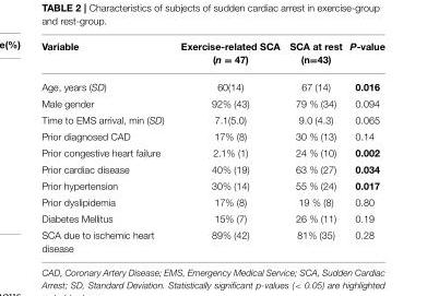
<table><thead><tr><td>Variable</td><td>Exercise-related SCA (n = 47)</td><td>SCA at rest (n=43)</td><td>P-value</td></tr></thead><tbody><tr><td>Age, years (SD)</td><td>60(14)</td><td>67 (14)</td><td>0.016</td></tr><tr><td>Male gender</td><td>92% (43)</td><td>79 % (34)</td><td>0.094</td></tr><tr><td>Time to EMS arrival, min (SD)</td><td>7.1(5.0)</td><td>9.0 (4.3)</td><td>0.065</td></tr><tr><td>Prior diagnosed CAD</td><td>17% (8)</td><td>30 % (13)</td><td>0.14</td></tr><tr><td>Prior congestive heart failure</td><td>2.1% (1)</td><td>24 % (10)</td><td>0.002</td></tr><tr><td>Prior cardiac disease</td><td>40% (19)</td><td>63 % (27)</td><td>0.034</td></tr><tr><td>Prior hypertension</td><td>30% (14)</td><td>55 % (24)</td><td>0.017</td></tr><tr><td>Prior dyslipidemia</td><td>17% (8)</td><td>19 % (8)</td><td>0.80</td></tr><tr><td>Diabetes Mellitus</td><td>15% (7)</td><td>26 % (11)</td><td>0.19</td></tr><tr><td>SCA due to ischemic heart disease</td><td>89% (42)</td><td>81% (35)</td><td>0.28</td></tr></tbody></table>